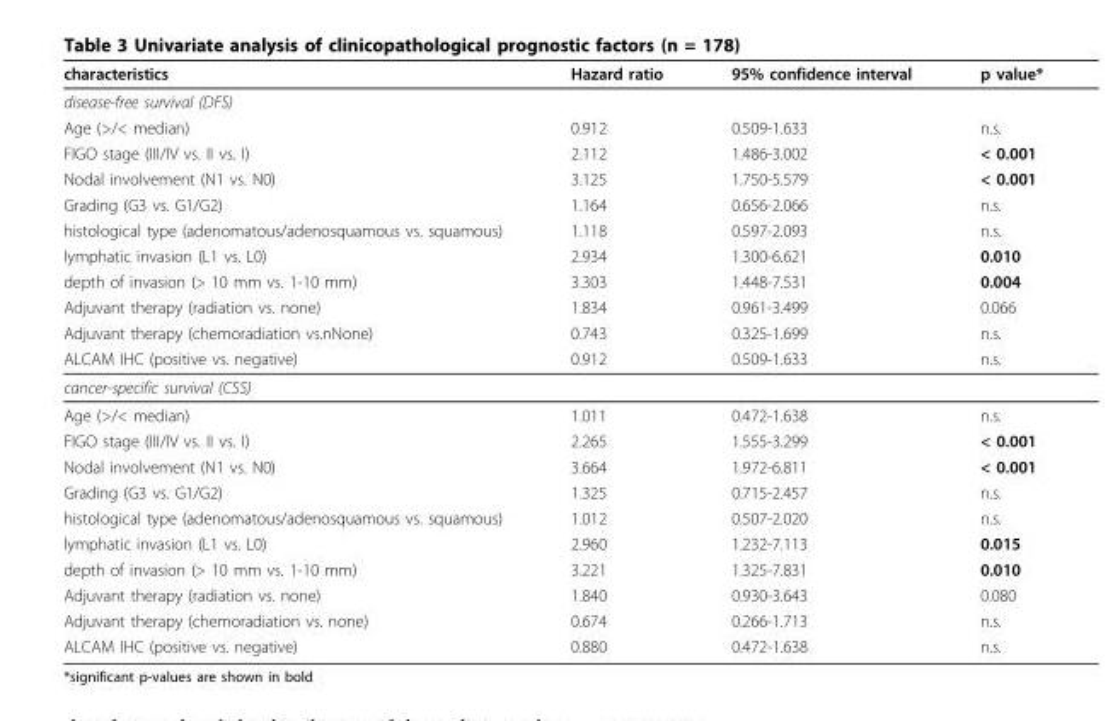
<table><thead><tr><td>characteristics</td><td>Hazard ratio</td><td>95% confidence interval</td><td>p value*</td></tr></thead><tbody><tr><td colspan="4">disease-free survival (DFS)</td></tr><tr><td>Age (&gt;/&lt; median)</td><td>0.912</td><td>0.509-1.633</td><td>n.s.</td></tr><tr><td>FIGO stage (III/IV vs. II vs. I)</td><td>2.112</td><td>1.486-3.002</td><td>&lt; 0.001</td></tr><tr><td>Nodal involvement (N1 vs. N0)</td><td>3.125</td><td>1.750-5.579</td><td>&lt; 0.001</td></tr><tr><td>Grading (G3 vs. G1/G2)</td><td>1.164</td><td>0.656-2.066</td><td>n.s.</td></tr><tr><td>histological type (adenomatous/adenosquamous vs. squamous)</td><td>1.118</td><td>0.597-2.093</td><td>n.s.</td></tr><tr><td>lymphatic invasion (L1 vs. L0)</td><td>2.934</td><td>1.300-6.621</td><td>0.010</td></tr><tr><td>depth of invasion (&gt; 10 mm vs. 1-10 mm)</td><td>3.303</td><td>1.448-7.531</td><td>0.004</td></tr><tr><td>Adjuvant therapy (radiation vs. none)</td><td>1.834</td><td>0.961-3.499</td><td>0.066</td></tr><tr><td>Adjuvant therapy (chemoradiation vs.nNone)</td><td>0.743</td><td>0.325-1.699</td><td>n.s.</td></tr><tr><td>ALCAM IHC (positive vs. negative)</td><td>0.912</td><td>0.509-1.633</td><td>n.s.</td></tr><tr><td colspan="4">cancer-specific survival (CSS)</td></tr><tr><td>Age (&gt;/&lt; median)</td><td>1.011</td><td>0.472-1.638</td><td>n.s.</td></tr><tr><td>FIGO stage (III/IV vs. II vs. I)</td><td>2.265</td><td>1.555-3.299</td><td>&lt; 0.001</td></tr><tr><td>Nodal involvement (N1 vs. N0)</td><td>3.664</td><td>1.972-6.811</td><td>&lt; 0.001</td></tr><tr><td>Grading (G3 vs. G1/G2)</td><td>1.325</td><td>0.715-2.457</td><td>n.s.</td></tr><tr><td>histological type (adenomatous/adenosquamous vs. squamous)</td><td>1.012</td><td>0.507-2.020</td><td>n.s.</td></tr><tr><td>lymphatic invasion (L1 vs. L0)</td><td>2.960</td><td>1.232-7.113</td><td>0.015</td></tr><tr><td>depth of invasion (&gt; 10 mm vs. 1-10 mm)</td><td>3.221</td><td>1.325-7.831</td><td>0.010</td></tr><tr><td>Adjuvant therapy (radiation vs. none)</td><td>1.840</td><td>0.930-3.643</td><td>0.080</td></tr><tr><td>Adjuvant therapy (chemoradiation vs. none)</td><td>0.674</td><td>0.266-1.713</td><td>n.s.</td></tr><tr><td>ALCAM IHC (positive vs. negative)</td><td>0.880</td><td>0.472-1.638</td><td>n.s.</td></tr></tbody></table>